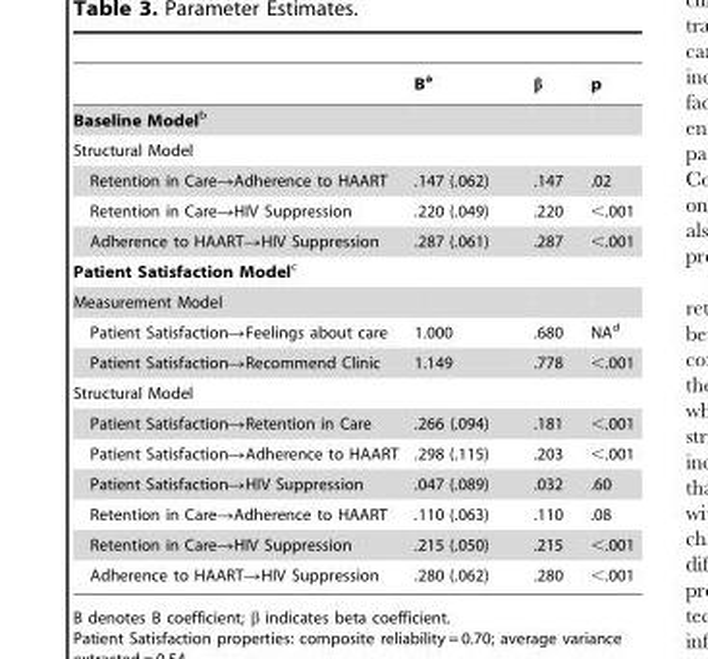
<table><thead><tr><td></td><td>B<sup>a</sup></td><td>β</td><td>p</td></tr></thead><tbody><tr><td colspan="4">Baseline Modelb</td></tr><tr><td colspan="4">Structural Model</td></tr><tr><td>Retention in Care→Adherence to HAART</td><td>.147 (.062)</td><td>.147</td><td>.02</td></tr><tr><td>Retention in Care→HIV Suppression</td><td>.220 (.049)</td><td>.220</td><td>&lt;.001</td></tr><tr><td>Adherence to HAART→HIV Suppression</td><td>.287 (.061)</td><td>.287</td><td>&lt;.001</td></tr><tr><td colspan="4">Patient Satisfaction Modelc</td></tr><tr><td colspan="4">Measurement Model</td></tr><tr><td>Patient Satisfaction→Feelings about care</td><td>1.000</td><td>.680</td><td>NA<sup>d</sup></td></tr><tr><td>Patient Satisfaction→Recommend Clinic</td><td>1.149</td><td>.778</td><td>&lt;.001</td></tr><tr><td colspan="4">Structural Model</td></tr><tr><td>Patient Satisfaction→Retention in Care</td><td>.266 (.094)</td><td>.181</td><td>&lt;.001</td></tr><tr><td>Patient Satisfaction→Adherence to HAART</td><td>.298 (.115)</td><td>.203</td><td>&lt;.001</td></tr><tr><td>Patient Satisfaction→HIV Suppression</td><td>.047 (.089)</td><td>.032</td><td>.60</td></tr><tr><td>Retention in Care→Adherence to HAART</td><td>.110 (.063)</td><td>.110</td><td>.08</td></tr><tr><td>Retention in Care→HIV Suppression</td><td>.215 (.050)</td><td>.215</td><td>&lt;.001</td></tr><tr><td>Adherence to HAART→HIV Suppression</td><td>.280 (.062)</td><td>.280</td><td>&lt;.001</td></tr></tbody></table>